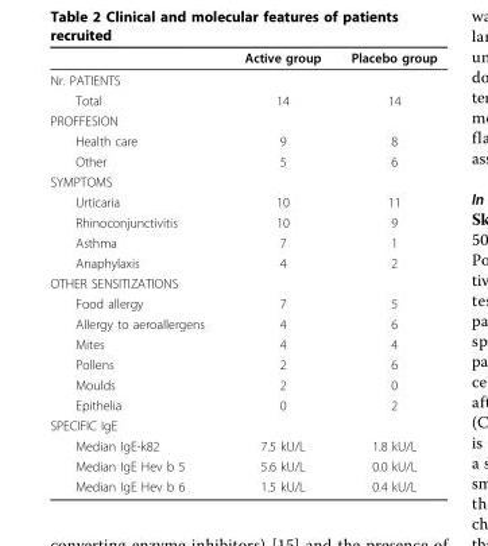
<table><thead><tr><td></td><td>Active group</td><td>Placebo group</td></tr></thead><tbody><tr><td colspan="3">Nr. PATIENTS</td></tr><tr><td>Total</td><td>14</td><td>14</td></tr><tr><td colspan="3">PROFFESION</td></tr><tr><td>Health care</td><td>9</td><td>8</td></tr><tr><td>Other</td><td>5</td><td>6</td></tr><tr><td colspan="3">SYMPTOMS</td></tr><tr><td>Urticaria</td><td>10</td><td>11</td></tr><tr><td>Rhinoconjunctivitis</td><td>10</td><td>9</td></tr><tr><td>Asthma</td><td>7</td><td>1</td></tr><tr><td>Anaphylaxis</td><td>4</td><td>2</td></tr><tr><td colspan="3">OTHER SENSITIZATIONS</td></tr><tr><td>Food allergy</td><td>7</td><td>5</td></tr><tr><td>Allergy to aeroallergens</td><td>4</td><td>6</td></tr><tr><td>Mites</td><td>4</td><td>4</td></tr><tr><td>Pollens</td><td>2</td><td>6</td></tr><tr><td>Moulds</td><td>2</td><td>0</td></tr><tr><td>Epithelia</td><td>0</td><td>2</td></tr><tr><td colspan="3">SPECIFIC IgE</td></tr><tr><td>Median IgE-k82</td><td>7.5 kU/L</td><td>1.8 kU/L</td></tr><tr><td>Median IgE Hev b 5</td><td>5.6 kU/L</td><td>0.0 kU/L</td></tr><tr><td>Median IgE Hev b 6</td><td>1.5 kU/L</td><td>0.4 kU/L</td></tr></tbody></table>